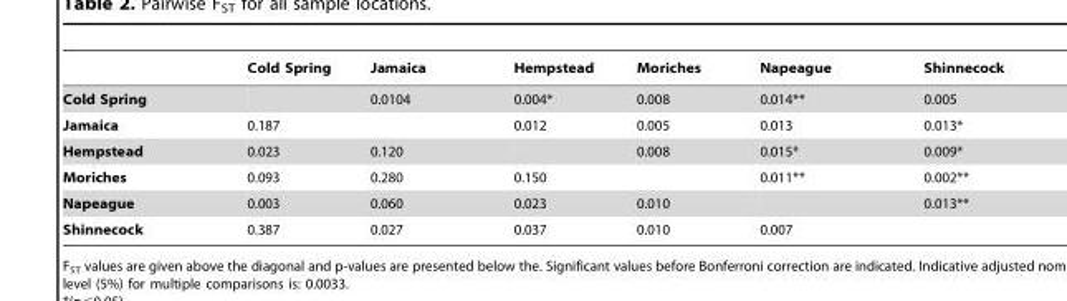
<table><thead><tr><td></td><td>Cold Spring</td><td>Jamaica</td><td>Hempstead</td><td>Moriches</td><td>Napeague</td><td>Shinnecock</td></tr></thead><tbody><tr><td>Cold Spring</td><td></td><td>0.0104</td><td>0.004*</td><td>0.008</td><td>0.014**</td><td>0.005</td></tr><tr><td>Jamaica</td><td>0.187</td><td></td><td>0.012</td><td>0.005</td><td>0.013</td><td>0.013*</td></tr><tr><td>Hempstead</td><td>0.023</td><td>0.120</td><td></td><td>0.008</td><td>0.015*</td><td>0.009*</td></tr><tr><td>Moriches</td><td>0.093</td><td>0.280</td><td>0.150</td><td></td><td>0.011**</td><td>0.002**</td></tr><tr><td>Napeague</td><td>0.003</td><td>0.060</td><td>0.023</td><td>0.010</td><td></td><td>0.013**</td></tr><tr><td>Shinnecock</td><td>0.387</td><td>0.027</td><td>0.037</td><td>0.010</td><td>0.007</td><td></td></tr></tbody></table>